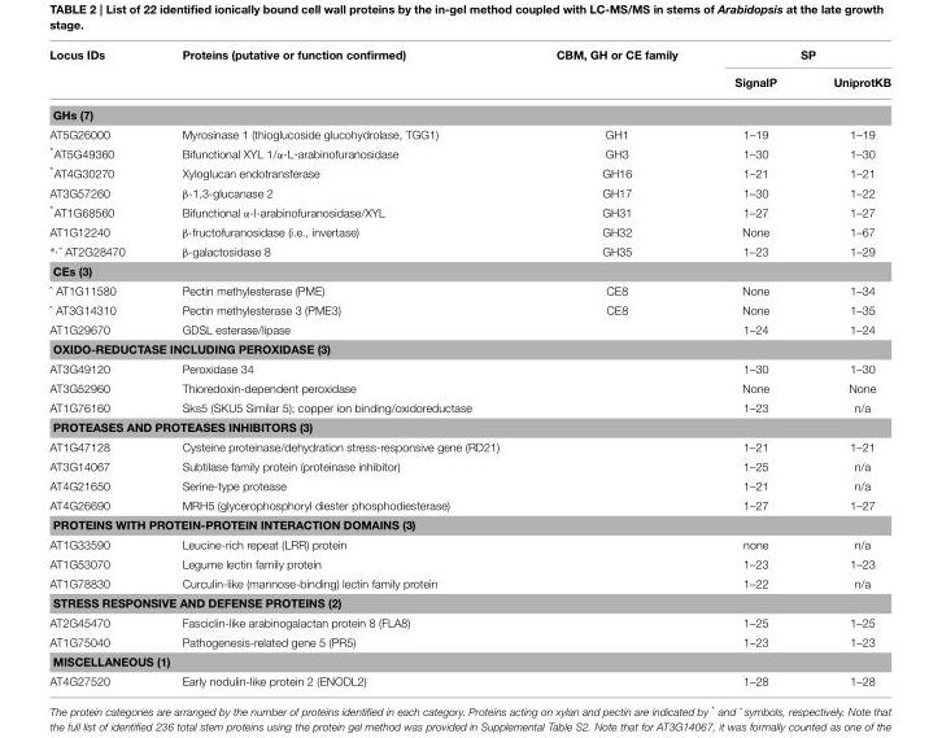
<table><thead><tr><td rowspan="2">Locus IDs</td><td rowspan="2">Proteins (putative or function confirmed)</td><td rowspan="2">CBM, GH or CE family</td><td colspan="2">SP</td></tr><tr><td>SignalP</td><td>UniprotKB</td></tr></thead><tbody><tr><td colspan="5">GHs (7)</td></tr><tr><td>AT5G26000</td><td>Myrosinase 1 (thioglucoside glucohydrolase, TGG1)</td><td>GH1</td><td>1–19</td><td>1–19</td></tr><tr><td>*AT5G49360</td><td>Bifunctional XYL 1/α-L-arabinofuranosidase</td><td>GH3</td><td>1–30</td><td>1–30</td></tr><tr><td>*AT4G30270</td><td>Xyloglucan endotransferase</td><td>GH16</td><td>1–21</td><td>1–21</td></tr><tr><td>AT3G57260</td><td>β-1,3-glucanase 2</td><td>GH17</td><td>1–30</td><td>1–22</td></tr><tr><td>*AT1G68560</td><td>Bifunctional α-l-arabinofuranosidase/XYL</td><td>GH31</td><td>1–27</td><td>1–27</td></tr><tr><td>AT1G12240</td><td>β-fructofuranosidase (i.e., invertase)</td><td>GH32</td><td>None</td><td>1–67</td></tr><tr><td>∗,ˆ AT2G28470</td><td>β-galactosidase 8</td><td>GH35</td><td>1–23</td><td>1–29</td></tr><tr><td colspan="5">CEs (3)</td></tr><tr><td>ˆ AT1G11580</td><td>Pectin methylesterase (PME)</td><td>CE8</td><td>None</td><td>1–34</td></tr><tr><td>ˆ AT3G14310</td><td>Pectin methylesterase 3 (PME3)</td><td>CE8</td><td>None</td><td>1–35</td></tr><tr><td>AT1G29670</td><td>GDSL esterase/lipase</td><td></td><td>1–24</td><td>1–24</td></tr><tr><td colspan="5">OXIDO-REDUCTASE INCLUDING PEROXIDASE (3)</td></tr><tr><td>AT3G49120</td><td>Peroxidase 34</td><td></td><td>1–30</td><td>1–30</td></tr><tr><td>AT3G52960</td><td>Thioredoxin-dependent peroxidase</td><td></td><td>None</td><td>None</td></tr><tr><td>AT1G76160</td><td>Sks5 (SKU5 Similar 5); copper ion binding/oxidoreductase</td><td></td><td>1–23</td><td>n/a</td></tr><tr><td colspan="5">PROTEASES AND PROTEASES INHIBITORS (3)</td></tr><tr><td>AT1G47128</td><td>Cysteine proteinase/dehydration stress-responsive gene (RD21)</td><td></td><td>1–21</td><td>1–21</td></tr><tr><td>AT3G14067</td><td>Subtilase family protein (proteinase inhibitor)</td><td></td><td>1–25</td><td>n/a</td></tr><tr><td>AT4G21650</td><td>Serine-type protease</td><td></td><td>1–21</td><td>n/a</td></tr><tr><td>AT4G26690</td><td>MRH5 (glycerophosphoryl diester phosphodiesterase)</td><td></td><td>1–27</td><td>1–27</td></tr><tr><td colspan="5">PROTEINS WITH PROTEIN-PROTEIN INTERACTION DOMAINS (3)</td></tr><tr><td>AT1G33590</td><td>Leucine-rich repeat (LRR) protein</td><td></td><td>none</td><td>n/a</td></tr><tr><td>AT1G53070</td><td>Legume lectin family protein</td><td></td><td>1–23</td><td>1–23</td></tr><tr><td>AT1G78830</td><td>Curculin-like (mannose-binding) lectin family protein</td><td></td><td>1–22</td><td>n/a</td></tr><tr><td colspan="5">STRESS RESPONSIVE AND DEFENSE PROTEINS (2)</td></tr><tr><td>AT2G45470</td><td>Fasciclin-like arabinogalactan protein 8 (FLA8)</td><td></td><td>1–25</td><td>1–25</td></tr><tr><td>AT1G75040</td><td>Pathogenesis-related gene 5 (PR5)</td><td></td><td>1–23</td><td>1–23</td></tr><tr><td colspan="5">MISCELLANEOUS (1)</td></tr><tr><td>AT4G27520</td><td>Early nodulin-like protein 2 (ENODL2)</td><td></td><td>1–28</td><td>1–28</td></tr></tbody></table>